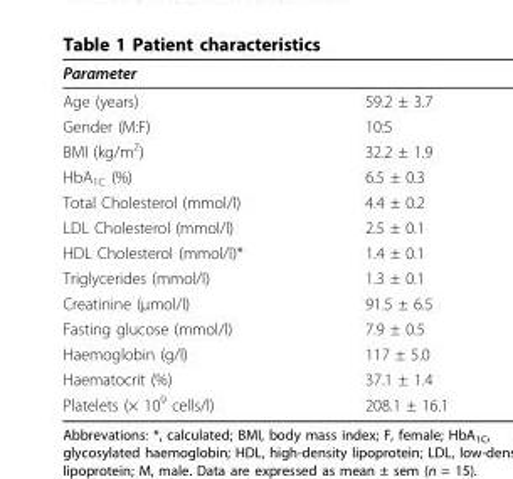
<table><thead><tr><td>Parameter</td><td></td></tr></thead><tbody><tr><td>Age (years)</td><td>59.2 ± 3.7</td></tr><tr><td>Gender (M:F)</td><td>10:5</td></tr><tr><td>BMI (kg/m<sup>2</sup>)</td><td>32.2 ± 1.9</td></tr><tr><td>HbA<sub>1C</sub> (%)</td><td>6.5 ± 0.3</td></tr><tr><td>Total Cholesterol (mmol/l)</td><td>4.4 ± 0.2</td></tr><tr><td>LDL Cholesterol (mmol/l)</td><td>2.5 ± 0.1</td></tr><tr><td>HDL Cholesterol (mmol/l)*</td><td>1.4 ± 0.1</td></tr><tr><td>Triglycerides (mmol/l)</td><td>1.3 ± 0.1</td></tr><tr><td>Creatinine (μmol/l)</td><td>91.5 ± 6.5</td></tr><tr><td>Fasting glucose (mmol/l)</td><td>7.9 ± 0.5</td></tr><tr><td>Haemoglobin (g/l)</td><td>117 ± 5.0</td></tr><tr><td>Haematocrit (%)</td><td>37.1 ± 1.4</td></tr><tr><td>Platelets (× 10<sup>9</sup> cells/l)</td><td>208.1 ± 16.1</td></tr></tbody></table>